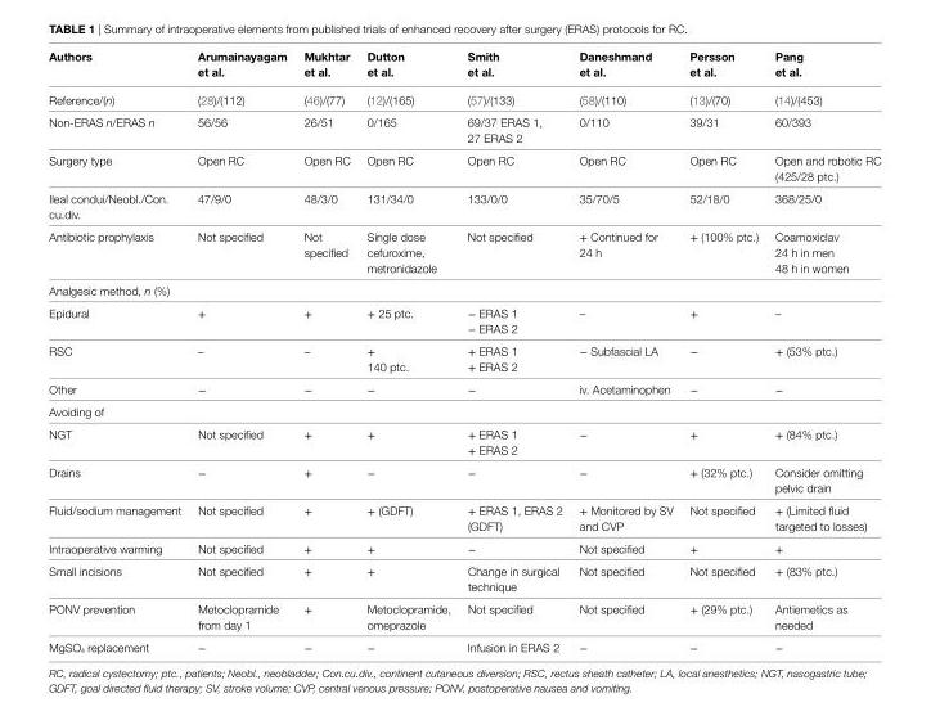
<table><thead><tr><td>Authors</td><td>Arumainayagam et al.</td><td>Mukhtar et al.</td><td>Dutton et al.</td><td>Smith et al.</td><td>Daneshmand et al.</td><td>Persson et al.</td><td>Pang et al.</td></tr></thead><tbody><tr><td>Reference/(n)</td><td>(28)/(112)</td><td>(46)/(77)</td><td>(12)/(165)</td><td>(57)/(133)</td><td>(58)/(110)</td><td>(13)/(70)</td><td>(14)/(453)</td></tr><tr><td>Non-ERAS n/ERAS n</td><td>56/56</td><td>26/51</td><td>0/165</td><td>69/37 ERAS 1, 27 ERAS 2</td><td>0/110</td><td>39/31</td><td>60/393</td></tr><tr><td>Surgery type</td><td>Open RC</td><td>Open RC</td><td>Open RC</td><td>Open RC</td><td>Open RC</td><td>Open RC</td><td>Open and robotic RC (425/28 ptc.)</td></tr><tr><td>Ileal condui/Neobl./Con. cu.div.</td><td>47/9/0</td><td>48/3/0</td><td>131/34/0</td><td>133/0/0</td><td>35/70/5</td><td>52/18/0</td><td>368/25/0</td></tr><tr><td>Antibiotic prophylaxis</td><td>Not specified</td><td>Not specified</td><td>Single dose cefuroxime, metronidazole</td><td>Not specified</td><td>+ Continued for 24 h</td><td>+ (100% ptc.)</td><td>Coamoxiclav 24 h in men 48 h in women</td></tr><tr><td colspan="8">Analgesic method, n (%)</td></tr><tr><td>Epidural</td><td>+</td><td>+</td><td>+ 25 ptc.</td><td>− ERAS 1 − ERAS 2</td><td>–</td><td>+</td><td>–</td></tr><tr><td>RSC</td><td>–</td><td>–</td><td>+ 140 ptc.</td><td>+ ERAS 1 + ERAS 2</td><td>− Subfascial LA</td><td>−</td><td>+ (53% ptc.)</td></tr><tr><td>Other</td><td>−</td><td>−</td><td>−</td><td>−</td><td>iv. Acetaminophen</td><td>−</td><td>−</td></tr><tr><td colspan="8">Avoiding of</td></tr><tr><td>NGT</td><td>Not specified</td><td>+</td><td>+</td><td>+ ERAS 1 + ERAS 2</td><td>−</td><td>+</td><td>+ (84% ptc.)</td></tr><tr><td>Drains</td><td>−</td><td>+</td><td>−</td><td>−</td><td>−</td><td>+ (32% ptc.)</td><td>Consider omitting pelvic drain</td></tr><tr><td>Fluid/sodium management</td><td>Not specified</td><td>+</td><td>+ (GDFT)</td><td>+ ERAS 1, ERAS 2 (GDFT)</td><td>+ Monitored by SV and CVP</td><td>Not specified</td><td>+ (Limited fluid targeted to losses)</td></tr><tr><td>Intraoperative warming</td><td>Not specified</td><td>+</td><td>+</td><td>−</td><td>Not specified</td><td>+</td><td>+</td></tr><tr><td>Small incisions</td><td>Not specified</td><td>+</td><td>+</td><td>Change in surgical technique</td><td>Not specified</td><td>Not specified</td><td>+ (83% ptc.)</td></tr><tr><td>PONV prevention</td><td>Metoclopramide from day 1</td><td>+</td><td>Metoclopramide, omeprazole</td><td>Not specified</td><td>Not specified</td><td>+ (29% ptc.)</td><td>Antiemetics as needed</td></tr><tr><td>MgSO<sub>4</sub> replacement</td><td>−</td><td>−</td><td>−</td><td>Infusion in ERAS 2</td><td>−</td><td>−</td><td>−</td></tr></tbody></table>